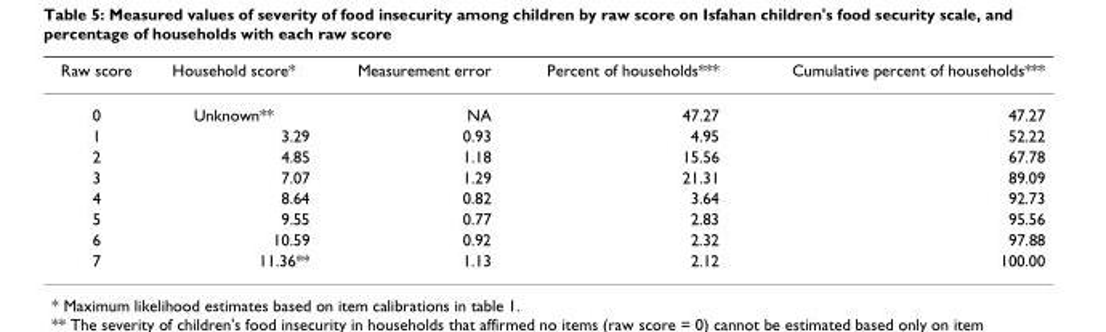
<table><thead><tr><td>Raw score</td><td>Household score*</td><td>Measurement error</td><td>Percent of households***</td><td>Cumulative percent of households***</td></tr></thead><tbody><tr><td>0</td><td>Unknown**</td><td>NA</td><td>47.27</td><td>47.27</td></tr><tr><td>1</td><td>3.29</td><td>0.93</td><td>4.95</td><td>52.22</td></tr><tr><td>2</td><td>4.85</td><td>1.18</td><td>15.56</td><td>67.78</td></tr><tr><td>3</td><td>7.07</td><td>1.29</td><td>21.31</td><td>89.09</td></tr><tr><td>4</td><td>8.64</td><td>0.82</td><td>3.64</td><td>92.73</td></tr><tr><td>5</td><td>9.55</td><td>0.77</td><td>2.83</td><td>95.56</td></tr><tr><td>6</td><td>10.59</td><td>0.92</td><td>2.32</td><td>97.88</td></tr><tr><td>7</td><td>11.36**</td><td>1.13</td><td>2.12</td><td>100.00</td></tr></tbody></table>